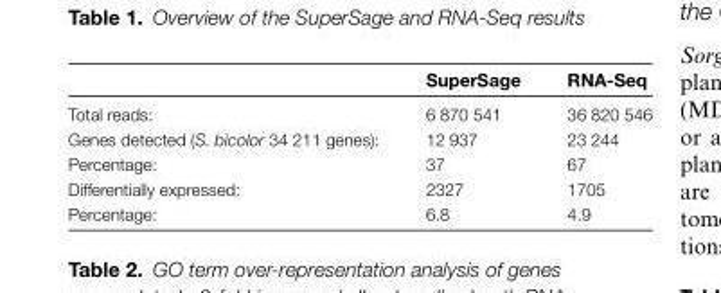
<table><thead><tr><td></td><td>SuperSage</td><td>RNA-Seq</td></tr></thead><tbody><tr><td>Total reads:</td><td>6 870 541</td><td>36 820 546</td></tr><tr><td>Genes detected (S. bicolor 34 211 genes):</td><td>12 937</td><td>23 244</td></tr><tr><td>Percentage:</td><td>37</td><td>67</td></tr><tr><td>Differentially expressed:</td><td>2327</td><td>1705</td></tr><tr><td>Percentage:</td><td>6.8</td><td>4.9</td></tr></tbody></table>